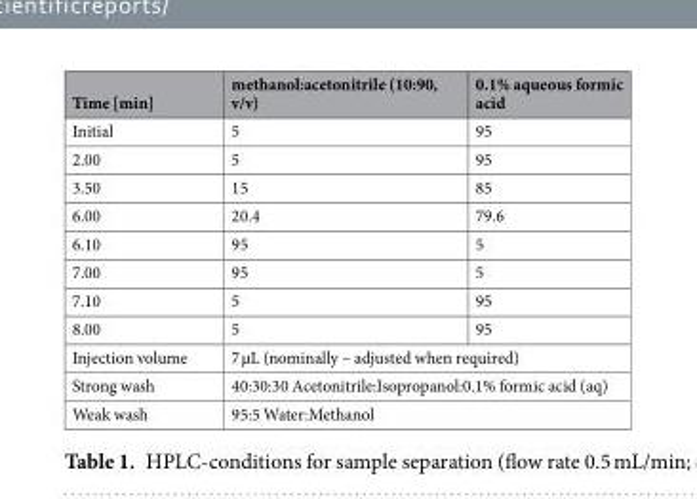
<table><thead><tr><td>Time [min]</td><td>methanol:acetonitrile (10:90, v/v)</td><td>0.1% aqueous formic acid</td></tr></thead><tbody><tr><td>Initial</td><td>5</td><td>95</td></tr><tr><td>2.00</td><td>5</td><td>95</td></tr><tr><td>3.50</td><td>15</td><td>85</td></tr><tr><td>6.00</td><td>20.4</td><td>79.6</td></tr><tr><td>6.10</td><td>95</td><td>5</td></tr><tr><td>7.00</td><td>95</td><td>5</td></tr><tr><td>7.10</td><td>5</td><td>95</td></tr><tr><td>8.00</td><td>5</td><td>95</td></tr><tr><td>Injection volume</td><td colspan="2">7 µL (nominally – adjusted when required)</td></tr><tr><td>Strong wash</td><td colspan="2">40:30:30 Acetonitrile:Isopropanol:0.1% formic acid (aq)</td></tr><tr><td>Weak wash</td><td colspan="2">95:5 Water:Methanol</td></tr></tbody></table>